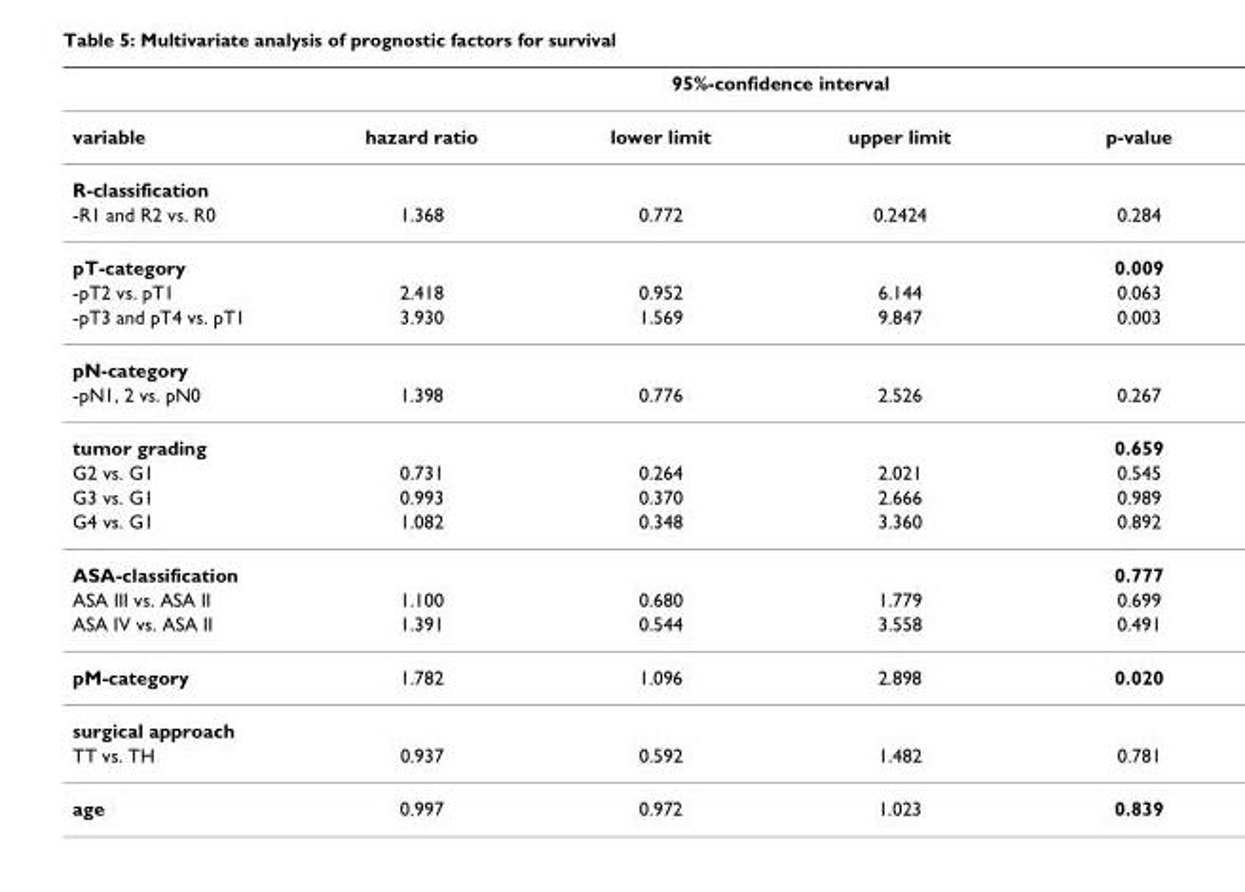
<table><thead><tr><td rowspan="2">variable</td><td rowspan="2">hazard ratio</td><td colspan="2">95%-confidence interval</td><td rowspan="2">p-value</td></tr><tr><td>lower limit</td><td>upper limit</td></tr></thead><tbody><tr><td colspan="5">R-classification</td></tr><tr><td>-R1 and R2 vs. R0</td><td>1.368</td><td>0.772</td><td>0.2424</td><td>0.284</td></tr><tr><td>pT-category</td><td></td><td></td><td></td><td>0.009</td></tr><tr><td>-pT2 vs. pT1</td><td>2.418</td><td>0.952</td><td>6.144</td><td>0.063</td></tr><tr><td>-pT3 and pT4 vs. pT1</td><td>3.930</td><td>1.569</td><td>9.847</td><td>0.003</td></tr><tr><td colspan="5">pN-category</td></tr><tr><td>-pN1, 2 vs. pN0</td><td>1.398</td><td>0.776</td><td>2.526</td><td>0.267</td></tr><tr><td>tumor grading</td><td></td><td></td><td></td><td>0.659</td></tr><tr><td>G2 vs. G1</td><td>0.731</td><td>0.264</td><td>2.021</td><td>0.545</td></tr><tr><td>G3 vs. G1</td><td>0.993</td><td>0.370</td><td>2.666</td><td>0.989</td></tr><tr><td>G4 vs. G1</td><td>1.082</td><td>0.348</td><td>3.360</td><td>0.892</td></tr><tr><td>ASA-classification</td><td></td><td></td><td></td><td>0.777</td></tr><tr><td>ASA III vs. ASA II</td><td>1.100</td><td>0.680</td><td>1.779</td><td>0.699</td></tr><tr><td>ASA IV vs. ASA II</td><td>1.391</td><td>0.544</td><td>3.558</td><td>0.491</td></tr><tr><td>pM-category</td><td>1.782</td><td>1.096</td><td>2.898</td><td>0.020</td></tr><tr><td colspan="5">surgical approach</td></tr><tr><td>TT vs. TH</td><td>0.937</td><td>0.592</td><td>1.482</td><td>0.781</td></tr><tr><td>age</td><td>0.997</td><td>0.972</td><td>1.023</td><td>0.839</td></tr></tbody></table>